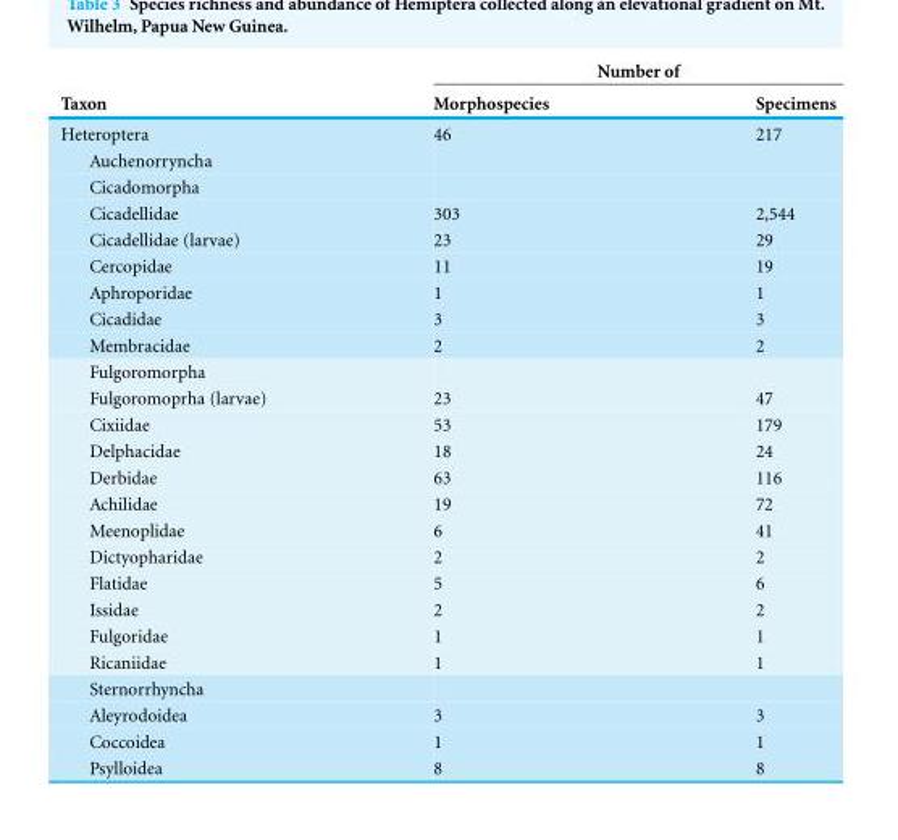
<table><thead><tr><td rowspan="2">Taxon</td><td colspan="2">Number of</td></tr><tr><td>Morphospecies</td><td>Specimens</td></tr></thead><tbody><tr><td>Heteroptera</td><td>46</td><td>217</td></tr><tr><td colspan="3">Auchenorryncha</td></tr><tr><td colspan="3">Cicadomorpha</td></tr><tr><td>Cicadellidae</td><td>303</td><td>2,544</td></tr><tr><td>Cicadellidae (larvae)</td><td>23</td><td>29</td></tr><tr><td>Cercopidae</td><td>11</td><td>19</td></tr><tr><td>Aphroporidae</td><td>1</td><td>1</td></tr><tr><td>Cicadidae</td><td>3</td><td>3</td></tr><tr><td>Membracidae</td><td>2</td><td>2</td></tr><tr><td colspan="3">Fulgoromorpha</td></tr><tr><td>Fulgoromoprha (larvae)</td><td>23</td><td>47</td></tr><tr><td>Cixiidae</td><td>53</td><td>179</td></tr><tr><td>Delphacidae</td><td>18</td><td>24</td></tr><tr><td>Derbidae</td><td>63</td><td>116</td></tr><tr><td>Achilidae</td><td>19</td><td>72</td></tr><tr><td>Meenoplidae</td><td>6</td><td>41</td></tr><tr><td>Dictyopharidae</td><td>2</td><td>2</td></tr><tr><td>Flatidae</td><td>5</td><td>6</td></tr><tr><td>Issidae</td><td>2</td><td>2</td></tr><tr><td>Fulgoridae</td><td>1</td><td>1</td></tr><tr><td>Ricaniidae</td><td>1</td><td>1</td></tr><tr><td colspan="3">Sternorrhyncha</td></tr><tr><td>Aleyrodoidea</td><td>3</td><td>3</td></tr><tr><td>Coccoidea</td><td>1</td><td>1</td></tr><tr><td>Psylloidea</td><td>8</td><td>8</td></tr></tbody></table>